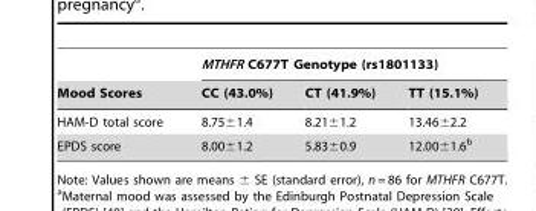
<table><thead><tr><td rowspan="2">Mood Scores</td><td colspan="3">MTHFR C677T Genotype (rs1801133)</td></tr><tr><td>CC (43.0%)</td><td>CT (41.9%)</td><td>TT (15.1%)</td></tr></thead><tbody><tr><td>HAM-D total score</td><td>8.75±1.4</td><td>8.21±1.2</td><td>13.46±2.2</td></tr><tr><td>EPDS score</td><td>8.00±1.2</td><td>5.83±0.9</td><td>12.00±1.6<sup>b</sup></td></tr></tbody></table>